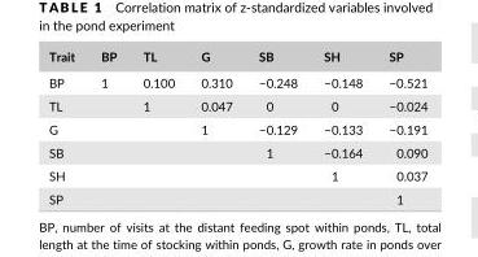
<table><thead><tr><td>Trait</td><td>BP</td><td>TL</td><td>G</td><td>SB</td><td>SH</td><td>SP</td></tr></thead><tbody><tr><td>BP</td><td>1</td><td>0.100</td><td>0.310</td><td>−0.248</td><td>−0.148</td><td>−0.521</td></tr><tr><td>TL</td><td></td><td>1</td><td>0.047</td><td>0</td><td>0</td><td>−0.024</td></tr><tr><td>G</td><td></td><td></td><td>1</td><td>−0.129</td><td>−0.133</td><td>−0.191</td></tr><tr><td>SB</td><td></td><td></td><td></td><td>1</td><td>−0.164</td><td>0.090</td></tr><tr><td>SH</td><td></td><td></td><td></td><td></td><td>1</td><td>0.037</td></tr><tr><td>SP</td><td></td><td></td><td></td><td></td><td></td><td>1</td></tr></tbody></table>